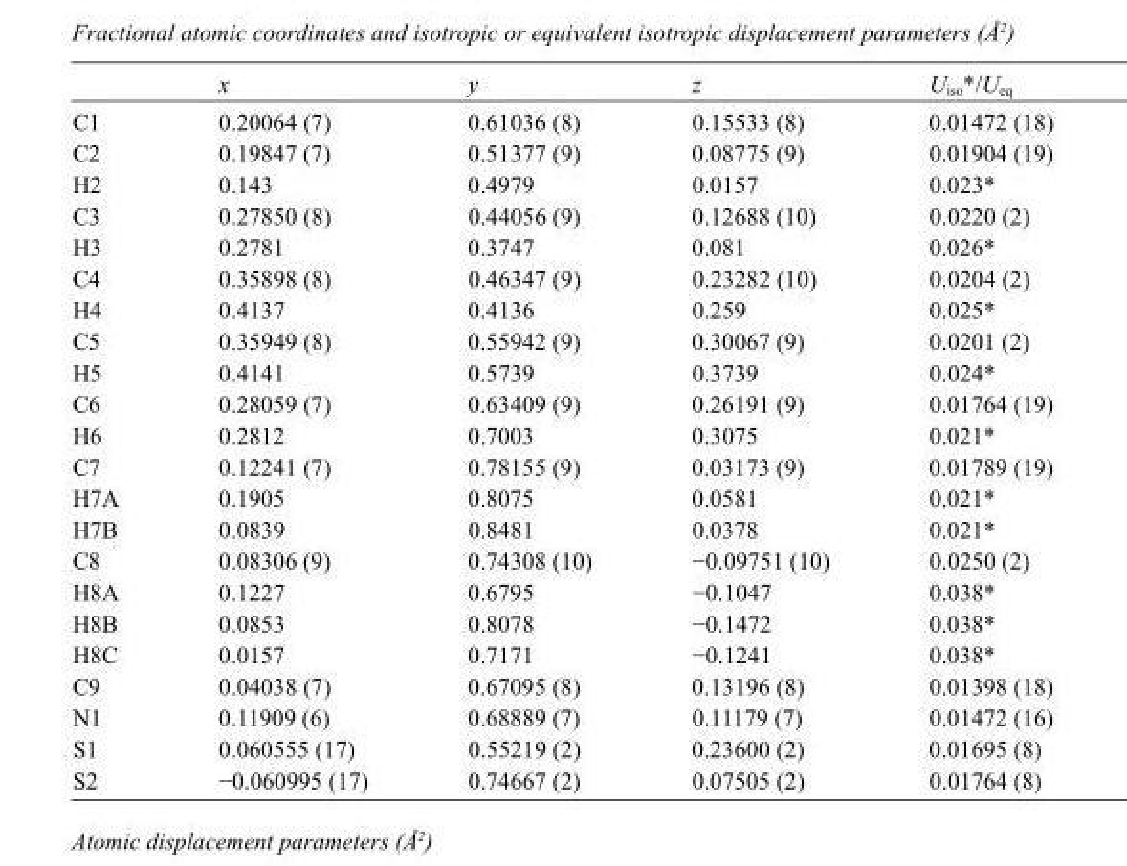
<table><thead><tr><td></td><td>x</td><td>y</td><td>z</td><td>U<sub>iso</sub>*/U<sub>eq</sub></td></tr></thead><tbody><tr><td>C1</td><td>0.20064 (7)</td><td>0.61036 (8)</td><td>0.15533 (8)</td><td>0.01472 (18)</td></tr><tr><td>C2</td><td>0.19847 (7)</td><td>0.51377 (9)</td><td>0.08775 (9)</td><td>0.01904 (19)</td></tr><tr><td>H2</td><td>0.143</td><td>0.4979</td><td>0.0157</td><td>0.023*</td></tr><tr><td>C3</td><td>0.27850 (8)</td><td>0.44056 (9)</td><td>0.12688 (10)</td><td>0.0220 (2)</td></tr><tr><td>H3</td><td>0.2781</td><td>0.3747</td><td>0.081</td><td>0.026*</td></tr><tr><td>C4</td><td>0.35898 (8)</td><td>0.46347 (9)</td><td>0.23282 (10)</td><td>0.0204 (2)</td></tr><tr><td>H4</td><td>0.4137</td><td>0.4136</td><td>0.259</td><td>0.025*</td></tr><tr><td>C5</td><td>0.35949 (8)</td><td>0.55942 (9)</td><td>0.30067 (9)</td><td>0.0201 (2)</td></tr><tr><td>H5</td><td>0.4141</td><td>0.5739</td><td>0.3739</td><td>0.024*</td></tr><tr><td>C6</td><td>0.28059 (7)</td><td>0.63409 (9)</td><td>0.26191 (9)</td><td>0.01764 (19)</td></tr><tr><td>H6</td><td>0.2812</td><td>0.7003</td><td>0.3075</td><td>0.021*</td></tr><tr><td>C7</td><td>0.12241 (7)</td><td>0.78155 (9)</td><td>0.03173 (9)</td><td>0.01789 (19)</td></tr><tr><td>H7A</td><td>0.1905</td><td>0.8075</td><td>0.0581</td><td>0.021*</td></tr><tr><td>H7B</td><td>0.0839</td><td>0.8481</td><td>0.0378</td><td>0.021*</td></tr><tr><td>C8</td><td>0.08306 (9)</td><td>0.74308 (10)</td><td>−0.09751 (10)</td><td>0.0250 (2)</td></tr><tr><td>H8A</td><td>0.1227</td><td>0.6795</td><td>−0.1047</td><td>0.038*</td></tr><tr><td>H8B</td><td>0.0853</td><td>0.8078</td><td>−0.1472</td><td>0.038*</td></tr><tr><td>H8C</td><td>0.0157</td><td>0.7171</td><td>−0.1241</td><td>0.038*</td></tr><tr><td>C9</td><td>0.04038 (7)</td><td>0.67095 (8)</td><td>0.13196 (8)</td><td>0.01398 (18)</td></tr><tr><td>N1</td><td>0.11909 (6)</td><td>0.68889 (7)</td><td>0.11179 (7)</td><td>0.01472 (16)</td></tr><tr><td>S1</td><td>0.060555 (17)</td><td>0.55219 (2)</td><td>0.23600 (2)</td><td>0.01695 (8)</td></tr><tr><td>S2</td><td>−0.060995 (17)</td><td>0.74667 (2)</td><td>0.07505 (2)</td><td>0.01764 (8)</td></tr></tbody></table>